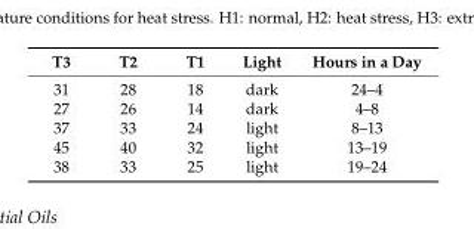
<table><thead><tr><td>T3</td><td>T2</td><td>T1</td><td>Light</td><td>Hours in a Day</td></tr></thead><tbody><tr><td>31</td><td>28</td><td>18</td><td>dark</td><td>24–4</td></tr><tr><td>27</td><td>26</td><td>14</td><td>dark</td><td>4–8</td></tr><tr><td>37</td><td>33</td><td>24</td><td>light</td><td>8–13</td></tr><tr><td>45</td><td>40</td><td>32</td><td>light</td><td>13–19</td></tr><tr><td>38</td><td>33</td><td>25</td><td>light</td><td>19–24</td></tr></tbody></table>